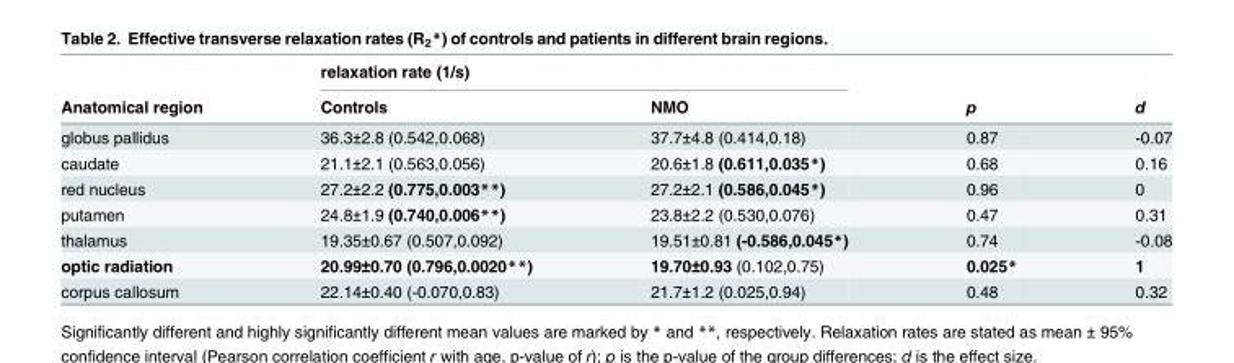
<table><thead><tr><td rowspan="2">Anatomical region</td><td colspan="2">relaxation rate (1/s)</td><td rowspan="2">p</td><td rowspan="2">d</td></tr><tr><td>Controls</td><td>NMO</td></tr></thead><tbody><tr><td>globus pallidus</td><td>36.3±2.8 (0.542,0.068)</td><td>37.7±4.8 (0.414,0.18)</td><td>0.87</td><td>-0.07</td></tr><tr><td>caudate</td><td>21.1±2.1 (0.563,0.056)</td><td>20.6±1.8 (0.611,0.035*)</td><td>0.68</td><td>0.16</td></tr><tr><td>red nucleus</td><td>27.2±2.2 (0.775,0.003**)</td><td>27.2±2.1 (0.586,0.045*)</td><td>0.96</td><td>0</td></tr><tr><td>putamen</td><td>24.8±1.9 (0.740,0.006**)</td><td>23.8±2.2 (0.530,0.076)</td><td>0.47</td><td>0.31</td></tr><tr><td>thalamus</td><td>19.35±0.67 (0.507,0.092)</td><td>19.51±0.81 (-0.586,0.045*)</td><td>0.74</td><td>-0.08</td></tr><tr><td>optic radiation</td><td>20.99±0.70 (0.796,0.0020**)</td><td>19.70±0.93 (0.102,0.75)</td><td>0.025*</td><td>1</td></tr><tr><td>corpus callosum</td><td>22.14±0.40 (-0.070,0.83)</td><td>21.7±1.2 (0.025,0.94)</td><td>0.48</td><td>0.32</td></tr></tbody></table>